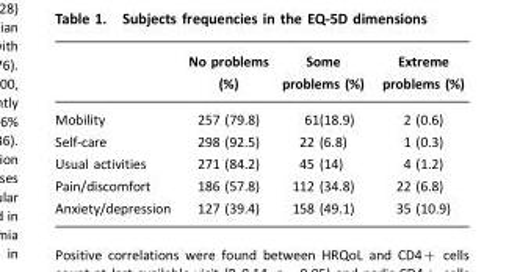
<table><thead><tr><td></td><td>No problems (%)</td><td>Some problems (%)</td><td>Extreme problems (%)</td></tr></thead><tbody><tr><td>Mobility</td><td>257 (79.8)</td><td>61(18.9)</td><td>2 (0.6)</td></tr><tr><td>Self-care</td><td>298 (92.5)</td><td>22 (6.8)</td><td>1 (0.3)</td></tr><tr><td>Usual activities</td><td>271 (84.2)</td><td>45 (14)</td><td>4 (1.2)</td></tr><tr><td>Pain/discomfort</td><td>186 (57.8)</td><td>112 (34.8)</td><td>22 (6.8)</td></tr><tr><td>Anxiety/depression</td><td>127 (39.4)</td><td>158 (49.1)</td><td>35 (10.9)</td></tr></tbody></table>